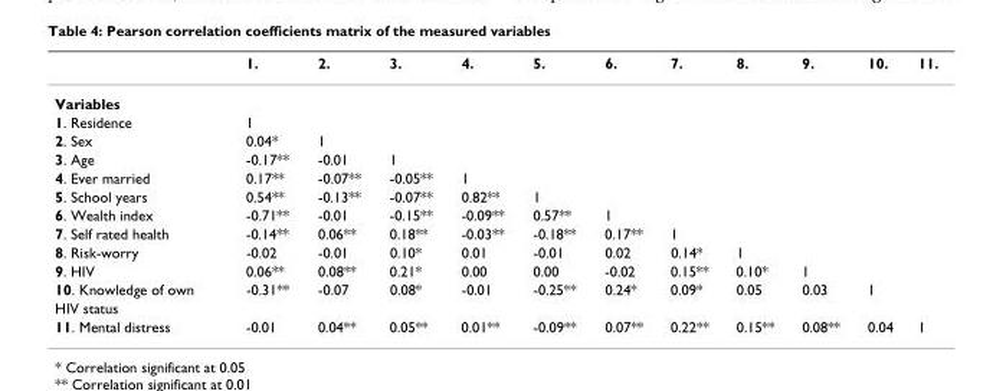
<table><thead><tr><td></td><td>1.</td><td>2.</td><td>3.</td><td>4.</td><td>5.</td><td>6.</td><td>7.</td><td>8.</td><td>9.</td><td>10.</td><td>11.</td></tr></thead><tbody><tr><td colspan="12">Variables</td></tr><tr><td>1. Residence</td><td>1</td><td></td><td></td><td></td><td></td><td></td><td></td><td></td><td></td><td></td><td></td></tr><tr><td>2. Sex</td><td>0.04*</td><td>1</td><td></td><td></td><td></td><td></td><td></td><td></td><td></td><td></td><td></td></tr><tr><td>3. Age</td><td>-0.17**</td><td>-0.01</td><td>1</td><td></td><td></td><td></td><td></td><td></td><td></td><td></td><td></td></tr><tr><td>4. Ever married</td><td>0.17**</td><td>-0.07**</td><td>-0.05**</td><td>1</td><td></td><td></td><td></td><td></td><td></td><td></td><td></td></tr><tr><td>5. School years</td><td>0.54**</td><td>-0.13**</td><td>-0.07**</td><td>0.82**</td><td>1</td><td></td><td></td><td></td><td></td><td></td><td></td></tr><tr><td>6. Wealth index</td><td>-0.71**</td><td>-0.01</td><td>-0.15**</td><td>-0.09**</td><td>0.57**</td><td>1</td><td></td><td></td><td></td><td></td><td></td></tr><tr><td>7. Self rated health</td><td>-0.14**</td><td>0.06**</td><td>0.18**</td><td>-0.03**</td><td>-0.18**</td><td>0.17**</td><td>1</td><td></td><td></td><td></td><td></td></tr><tr><td>8. Risk-worry</td><td>-0.02</td><td>-0.01</td><td>0.10*</td><td>0.01</td><td>-0.01</td><td>0.02</td><td>0.14*</td><td>1</td><td></td><td></td><td></td></tr><tr><td>9. HIV</td><td>0.06**</td><td>0.08**</td><td>0.21*</td><td>0.00</td><td>0.00</td><td>-0.02</td><td>0.15**</td><td>0.10*</td><td>1</td><td></td><td></td></tr><tr><td>10. Knowledge of own</td><td>-0.31**</td><td>-0.07</td><td>0.08*</td><td>-0.01</td><td>-0.25**</td><td>0.24*</td><td>0.09*</td><td>0.05</td><td>0.03</td><td>1</td><td></td></tr><tr><td colspan="12">HIV status</td></tr><tr><td>11. Mental distress</td><td>-0.01</td><td>0.04**</td><td>0.05**</td><td>0.01**</td><td>-0.09**</td><td>0.07**</td><td>0.22**</td><td>0.15**</td><td>0.08**</td><td>0.04</td><td>1</td></tr></tbody></table>